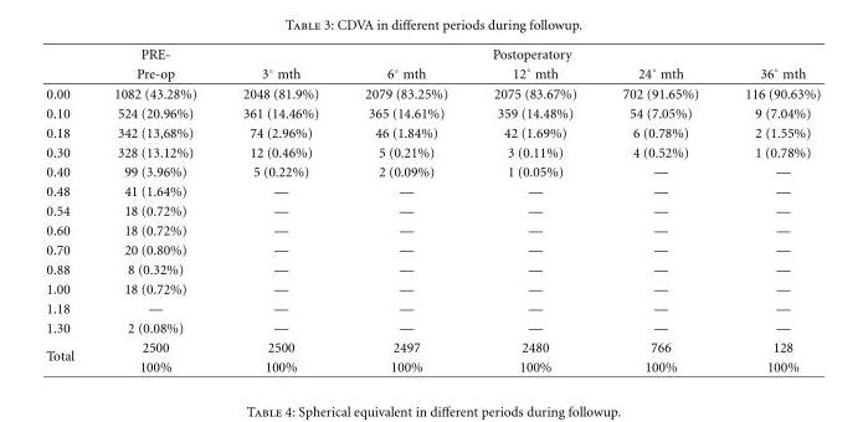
<table><thead><tr><td rowspan="2"></td><td rowspan="2">PRE- Pre-op</td><td colspan="5">Postoperatory</td></tr><tr><td>3◦ mth</td><td>6◦ mth</td><td>12◦ mth</td><td>24◦ mth</td><td>36◦ mth</td></tr></thead><tbody><tr><td>0.00</td><td>1082 (43.28%)</td><td>2048 (81.9%)</td><td>2079 (83.25%)</td><td>2075 (83.67%)</td><td>702 (91.65%)</td><td>116 (90.63%)</td></tr><tr><td>0.10</td><td>524 (20.96%)</td><td>361 (14.46%)</td><td>365 (14.61%)</td><td>359 (14.48%)</td><td>54 (7.05%)</td><td>9 (7.04%)</td></tr><tr><td>0.18</td><td>342 (13,68%)</td><td>74 (2.96%)</td><td>46 (1.84%)</td><td>42 (1.69%)</td><td>6 (0.78%)</td><td>2 (1.55%)</td></tr><tr><td>0.30</td><td>328 (13.12%)</td><td>12 (0.46%)</td><td>5 (0.21%)</td><td>3 (0.11%)</td><td>4 (0.52%)</td><td>1 (0.78%)</td></tr><tr><td>0.40</td><td>99 (3.96%)</td><td>5 (0.22%)</td><td>2 (0.09%)</td><td>1 (0.05%)</td><td>—</td><td>—</td></tr><tr><td>0.48</td><td>41 (1.64%)</td><td>—</td><td>—</td><td>—</td><td>—</td><td>—</td></tr><tr><td>0.54</td><td>18 (0.72%)</td><td>—</td><td>—</td><td>—</td><td>—</td><td>—</td></tr><tr><td>0.60</td><td>18 (0.72%)</td><td>—</td><td>—</td><td>—</td><td>—</td><td>—</td></tr><tr><td>0.70</td><td>20 (0.80%)</td><td>—</td><td>—</td><td>—</td><td>—</td><td>—</td></tr><tr><td>0.88</td><td>8 (0.32%)</td><td>—</td><td>—</td><td>—</td><td>—</td><td>—</td></tr><tr><td>1.00</td><td>18 (0.72%)</td><td>—</td><td>—</td><td>—</td><td>—</td><td>—</td></tr><tr><td>1.18</td><td>—</td><td>—</td><td>—</td><td>—</td><td>—</td><td>—</td></tr><tr><td>1.30</td><td>2 (0.08%)</td><td>—</td><td>—</td><td>—</td><td>—</td><td>—</td></tr><tr><td rowspan="2">Total</td><td>2500</td><td>2500</td><td>2497</td><td>2480</td><td>766</td><td>128</td></tr><tr><td>100%</td><td>100%</td><td>100%</td><td>100%</td><td>100%</td><td>100%</td></tr></tbody></table>